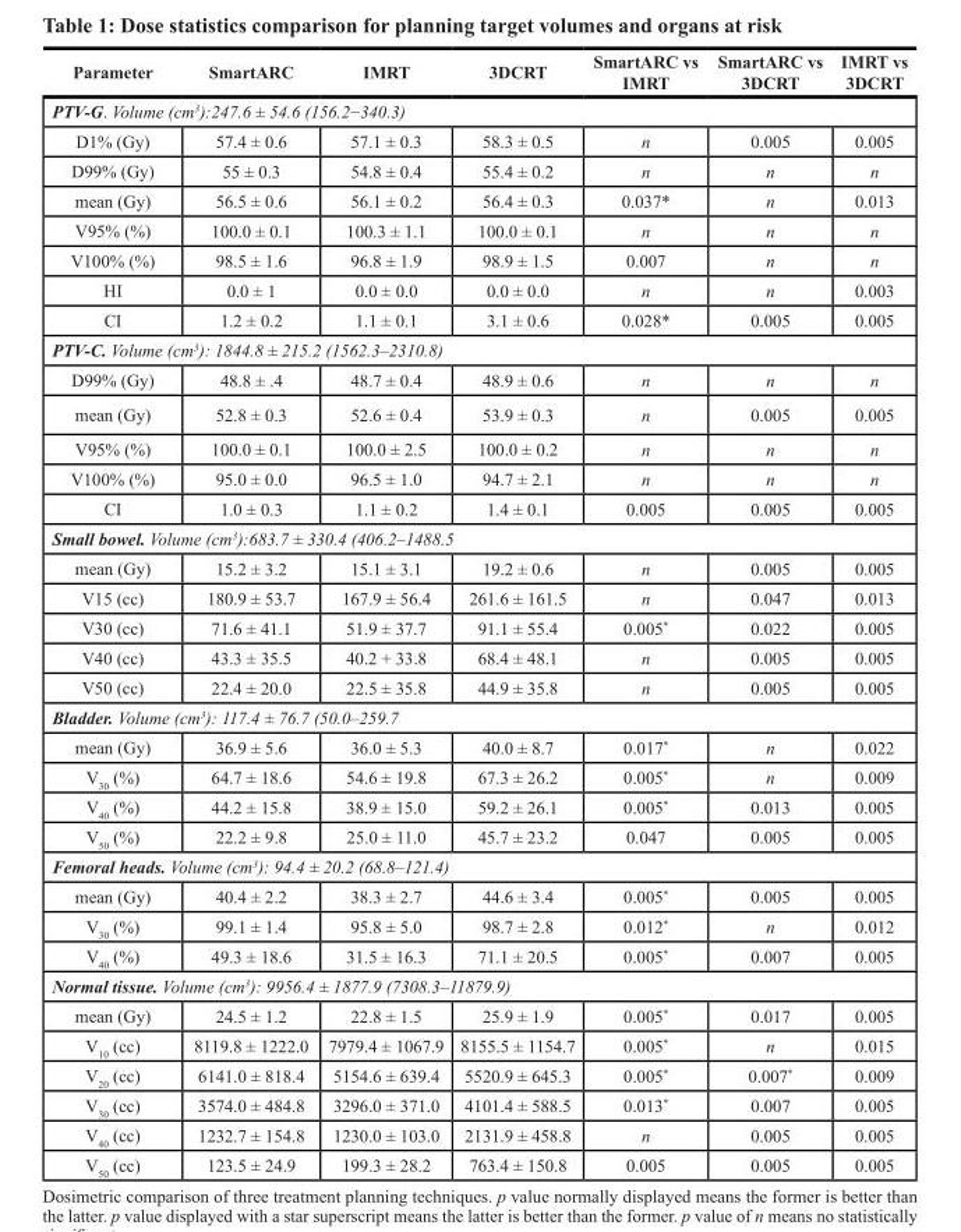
<table><thead><tr><td>Parameter</td><td>SmartARC</td><td>IMRT</td><td>3DCRT</td><td>SmartARC vs IMRT</td><td>SmartARC vs 3DCRT</td><td>IMRT vs 3DCRT</td></tr></thead><tbody><tr><td colspan="7">PTV-G. Volume (cm<sup>3</sup>):247.6 ± 54.6 (156.2−340.3)</td></tr><tr><td>D1% (Gy)</td><td>57.4 ± 0.6</td><td>57.1 ± 0.3</td><td>58.3 ± 0.5</td><td>n</td><td>0.005</td><td>0.005</td></tr><tr><td>D99% (Gy)</td><td>55 ± 0.3</td><td>54.8 ± 0.4</td><td>55.4 ± 0.2</td><td>n</td><td>n</td><td>n</td></tr><tr><td>mean (Gy)</td><td>56.5 ± 0.6</td><td>56.1 ± 0.2</td><td>56.4 ± 0.3</td><td>0.037*</td><td>n</td><td>0.013</td></tr><tr><td>V95% (%)</td><td>100.0 ± 0.1</td><td>100.3 ± 1.1</td><td>100.0 ± 0.1</td><td>n</td><td>n</td><td>n</td></tr><tr><td>V100% (%)</td><td>98.5 ± 1.6</td><td>96.8 ± 1.9</td><td>98.9 ± 1.5</td><td>0.007</td><td>n</td><td>n</td></tr><tr><td>HI</td><td>0.0 ± 1</td><td>0.0 ± 0.0</td><td>0.0 ± 0.0</td><td>n</td><td>n</td><td>0.003</td></tr><tr><td>CI</td><td>1.2 ± 0.2</td><td>1.1 ± 0.1</td><td>3.1 ± 0.6</td><td>0.028*</td><td>0.005</td><td>0.005</td></tr><tr><td colspan="7">PTV-C. Volume (cm<sup>3</sup>): 1844.8 ± 215.2 (1562.3–2310.8)</td></tr><tr><td>D99% (Gy)</td><td>48.8 ± .4</td><td>48.7 ± 0.4</td><td>48.9 ± 0.6</td><td>n</td><td>n</td><td>n</td></tr><tr><td>mean (Gy)</td><td>52.8 ± 0.3</td><td>52.6 ± 0.4</td><td>53.9 ± 0.3</td><td>n</td><td>0.005</td><td>0.005</td></tr><tr><td>V95% (%)</td><td>100.0 ± 0.1</td><td>100.0 ± 2.5</td><td>100.0 ± 0.2</td><td>n</td><td>n</td><td>n</td></tr><tr><td>V100% (%)</td><td>95.0 ± 0.0</td><td>96.5 ± 1.0</td><td>94.7 ± 2.1</td><td>n</td><td>n</td><td>n</td></tr><tr><td>CI</td><td>1.0 ± 0.3</td><td>1.1 ± 0.2</td><td>1.4 ± 0.1</td><td>0.005</td><td>0.005</td><td>0.005</td></tr><tr><td colspan="7">Small bowel. Volume (cm<sup>3</sup>):683.7 ± 330.4 (406.2–1488.5</td></tr><tr><td>mean (Gy)</td><td>15.2 ± 3.2</td><td>15.1 ± 3.1</td><td>19.2 ± 0.6</td><td>n</td><td>0.005</td><td>0.005</td></tr><tr><td>V15 (cc)</td><td>180.9 ± 53.7</td><td>167.9 ± 56.4</td><td>261.6 ± 161.5</td><td>n</td><td>0.047</td><td>0.013</td></tr><tr><td>V30 (cc)</td><td>71.6 ± 41.1</td><td>51.9 ± 37.7</td><td>91.1 ± 55.4</td><td>0.005*</td><td>0.022</td><td>0.005</td></tr><tr><td>V40 (cc)</td><td>43.3 ± 35.5</td><td>40.2 + 33.8</td><td>68.4 ± 48.1</td><td>n</td><td>0.005</td><td>0.005</td></tr><tr><td>V50 (cc)</td><td>22.4 ± 20.0</td><td>22.5 ± 35.8</td><td>44.9 ± 35.8</td><td>n</td><td>0.005</td><td>0.005</td></tr><tr><td colspan="7">Bladder. Volume (cm<sup>3</sup>): 117.4 ± 76.7 (50.0–259.7</td></tr><tr><td>mean (Gy)</td><td>36.9 ± 5.6</td><td>36.0 ± 5.3</td><td>40.0 ± 8.7</td><td>0.017*</td><td>n</td><td>0.022</td></tr><tr><td>V<sub>30</sub> (%)</td><td>64.7 ± 18.6</td><td>54.6 ± 19.8</td><td>67.3 ± 26.2</td><td>0.005*</td><td>n</td><td>0.009</td></tr><tr><td>V<sub>40</sub> (%)</td><td>44.2 ± 15.8</td><td>38.9 ± 15.0</td><td>59.2 ± 26.1</td><td>0.005*</td><td>0.013</td><td>0.005</td></tr><tr><td>V<sub>50</sub> (%)</td><td>22.2 ± 9.8</td><td>25.0 ± 11.0</td><td>45.7 ± 23.2</td><td>0.047</td><td>0.005</td><td>0.005</td></tr><tr><td colspan="7">Femoral heads. Volume (cm<sup>3</sup>): 94.4 ± 20.2 (68.8–121.4)</td></tr><tr><td>mean (Gy)</td><td>40.4 ± 2.2</td><td>38.3 ± 2.7</td><td>44.6 ± 3.4</td><td>0.005*</td><td>0.005</td><td>0.005</td></tr><tr><td>V<sub>30</sub> (%)</td><td>99.1 ± 1.4</td><td>95.8 ± 5.0</td><td>98.7 ± 2.8</td><td>0.012*</td><td>n</td><td>0.012</td></tr><tr><td>V<sub>40</sub> (%)</td><td>49.3 ± 18.6</td><td>31.5 ± 16.3</td><td>71.1 ± 20.5</td><td>0.005*</td><td>0.007</td><td>0.005</td></tr><tr><td colspan="7">Normal tissue. Volume (cm<sup>3</sup>): 9956.4 ± 1877.9 (7308.3–11879.9)</td></tr><tr><td>mean (Gy)</td><td>24.5 ± 1.2</td><td>22.8 ± 1.5</td><td>25.9 ± 1.9</td><td>0.005*</td><td>0.017</td><td>0.005</td></tr><tr><td>V<sub>10</sub> (cc)</td><td>8119.8 ± 1222.0</td><td>7979.4 ± 1067.9</td><td>8155.5 ± 1154.7</td><td>0.005*</td><td>n</td><td>0.015</td></tr><tr><td>V<sub>20</sub> (cc)</td><td>6141.0 ± 818.4</td><td>5154.6 ± 639.4</td><td>5520.9 ± 645.3</td><td>0.005*</td><td>0.007*</td><td>0.009</td></tr><tr><td>V<sub>30</sub> (cc)</td><td>3574.0 ± 484.8</td><td>3296.0 ± 371.0</td><td>4101.4 ± 588.5</td><td>0.013*</td><td>0.007</td><td>0.005</td></tr><tr><td>V<sub>40</sub> (cc)</td><td>1232.7 ± 154.8</td><td>1230.0 ± 103.0</td><td>2131.9 ± 458.8</td><td>n</td><td>0.005</td><td>0.005</td></tr><tr><td>V<sub>50</sub> (cc)</td><td>123.5 ± 24.9</td><td>199.3 ± 28.2</td><td>763.4 ± 150.8</td><td>0.005</td><td>0.005</td><td>0.005</td></tr></tbody></table>